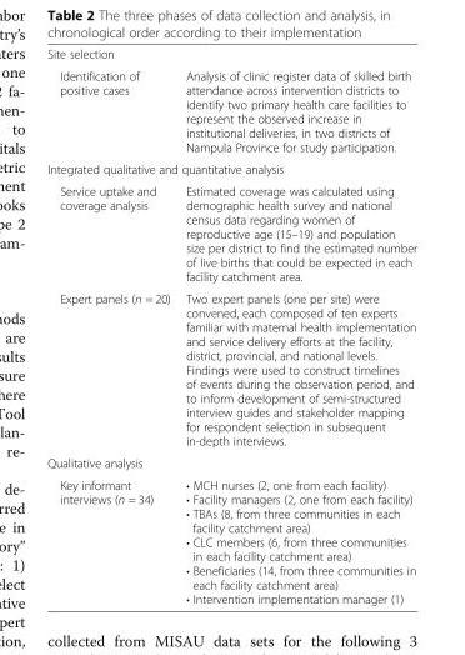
<table><tbody><tr><td colspan="2">Site selection</td></tr><tr><td>Identification of positive cases</td><td>Analysis of clinic register data of skilled birth attendance across intervention districts to identify two primary health care facilities to represent the observed increase in institutional deliveries, in two districts of Nampula Province for study participation.</td></tr><tr><td colspan="2">Integrated qualitative and quantitative analysis</td></tr><tr><td>Service uptake and coverage analysis</td><td>Estimated coverage was calculated using demographic health survey and national census data regarding women of reproductive age (15–19) and population size per district to find the estimated number of live births that could be expected in each facility catchment area.</td></tr><tr><td>Expert panels (n = 20)</td><td>Two expert panels (one per site) were convened, each composed of ten experts familiar with maternal health implementation and service delivery efforts at the facility, district, provincial, and national levels. Findings were used to construct timelines of events during the observation period, and to inform development of semi-structured interview guides and stakeholder mapping for respondent selection in subsequent in-depth interviews.</td></tr><tr><td colspan="2">Qualitative analysis</td></tr><tr><td>Key informant interviews (n = 34)</td><td>• MCH nurses (2, one from each facility) • Facility managers (2, one from each facility) • TBAs (8, from three communities in each facility catchment area) • CLC members (6, from three communities in each facility catchment area) • Beneficiaries (14, from three communities in each facility catchment area) • Intervention implementation manager (1)</td></tr></tbody></table>